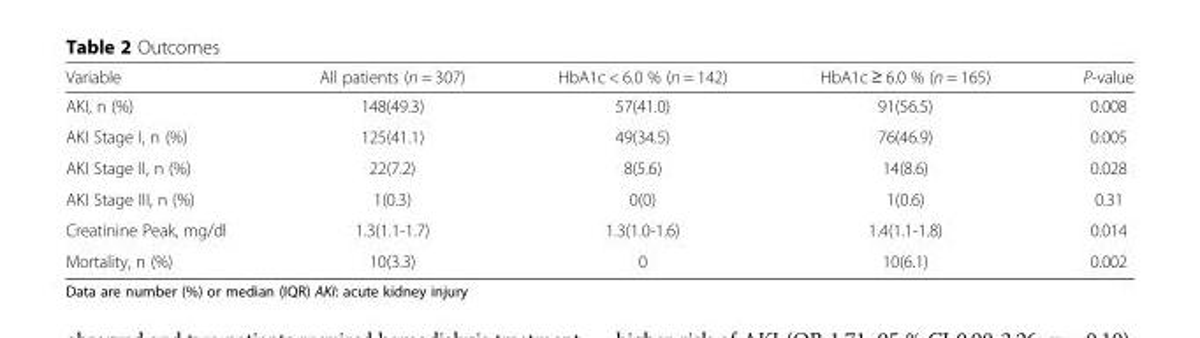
<table><thead><tr><td>Variable</td><td>All patients (n = 307)</td><td>HbA1c &lt; 6.0 % (n = 142)</td><td>HbA1c ≥ 6.0 % (n = 165)</td><td>P-value</td></tr></thead><tbody><tr><td>AKI, n (%)</td><td>148(49.3)</td><td>57(41.0)</td><td>91(56.5)</td><td>0.008</td></tr><tr><td>AKI Stage I, n (%)</td><td>125(41.1)</td><td>49(34.5)</td><td>76(46.9)</td><td>0.005</td></tr><tr><td>AKI Stage II, n (%)</td><td>22(7.2)</td><td>8(5.6)</td><td>14(8.6)</td><td>0.028</td></tr><tr><td>AKI Stage III, n (%)</td><td>1(0.3)</td><td>0(0)</td><td>1(0.6)</td><td>0.31</td></tr><tr><td>Creatinine Peak, mg/dl</td><td>1.3(1.1-1.7)</td><td>1.3(1.0-1.6)</td><td>1.4(1.1-1.8)</td><td>0.014</td></tr><tr><td>Mortality, n (%)</td><td>10(3.3)</td><td>0</td><td>10(6.1)</td><td>0.002</td></tr></tbody></table>